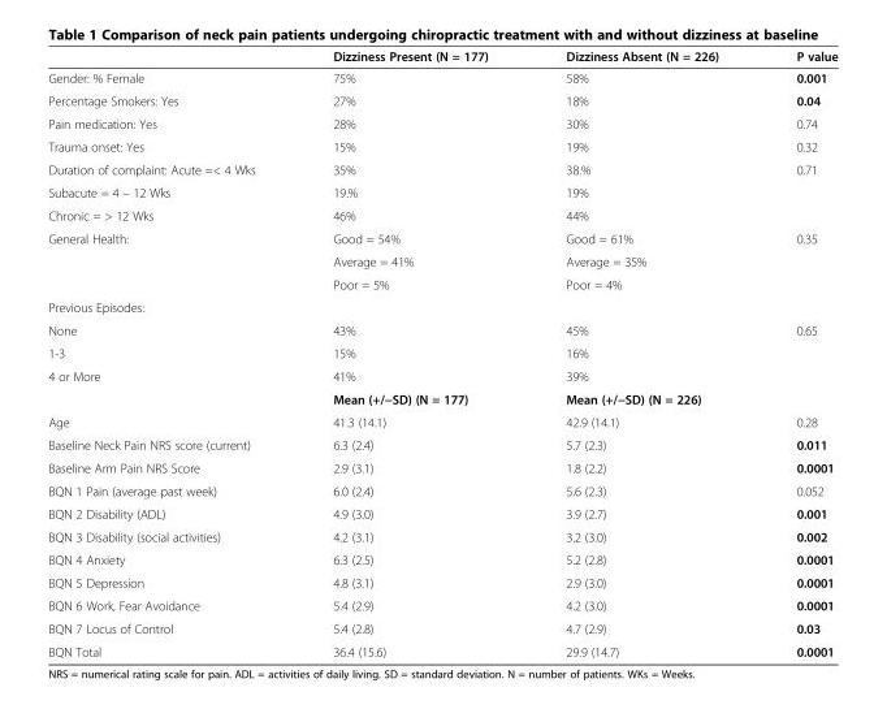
<table><thead><tr><td></td><td>Dizziness Present (N = 177)</td><td>Dizziness Absent (N = 226)</td><td>P value</td></tr></thead><tbody><tr><td>Gender: % Female</td><td>75%</td><td>58%</td><td>0.001</td></tr><tr><td>Percentage Smokers: Yes</td><td>27%</td><td>18%</td><td>0.04</td></tr><tr><td>Pain medication: Yes</td><td>28%</td><td>30%</td><td>0.74</td></tr><tr><td>Trauma onset: Yes</td><td>15%</td><td>19%</td><td>0.32</td></tr><tr><td>Duration of complaint: Acute =&lt; 4 Wks</td><td>35%</td><td>38.%</td><td>0.71</td></tr><tr><td>Subacute = 4 – 12 Wks</td><td>19.%</td><td>19%</td><td></td></tr><tr><td>Chronic = &gt; 12 Wks</td><td>46%</td><td>44%</td><td></td></tr><tr><td rowspan="3">General Health:</td><td>Good = 54%</td><td>Good = 61%</td><td>0.35</td></tr><tr><td>Average = 41%</td><td>Average = 35%</td><td></td></tr><tr><td>Poor = 5%</td><td>Poor = 4%</td><td></td></tr><tr><td colspan="4">Previous Episodes:</td></tr><tr><td>None</td><td>43%</td><td>45%</td><td>0.65</td></tr><tr><td>1-3</td><td>15%</td><td>16%</td><td></td></tr><tr><td rowspan="2">4 or More</td><td>41%</td><td>39%</td><td></td></tr><tr><td>Mean (+/−SD) (N = 177)</td><td>Mean (+/−SD) (N = 226)</td><td></td></tr><tr><td>Age</td><td>41.3 (14.1)</td><td>42.9 (14.1)</td><td>0.28</td></tr><tr><td>Baseline Neck Pain NRS score (current)</td><td>6.3 (2.4)</td><td>5.7 (2.3)</td><td>0.011</td></tr><tr><td>Baseline Arm Pain NRS Score</td><td>2.9 (3.1)</td><td>1.8 (2.2)</td><td>0.0001</td></tr><tr><td>BQN 1 Pain (average past week)</td><td>6.0 (2.4)</td><td>5.6 (2.3)</td><td>0.052</td></tr><tr><td>BQN 2 Disability (ADL)</td><td>4.9 (3.0)</td><td>3.9 (2.7)</td><td>0.001</td></tr><tr><td>BQN 3 Disability (social activities)</td><td>4.2 (3.1)</td><td>3.2 (3.0)</td><td>0.002</td></tr><tr><td>BQN 4 Anxiety</td><td>6.3 (2.5)</td><td>5.2 (2.8)</td><td>0.0001</td></tr><tr><td>BQN 5 Depression</td><td>4.8 (3.1)</td><td>2.9 (3.0)</td><td>0.0001</td></tr><tr><td>BQN 6 Work, Fear Avoidance</td><td>5.4 (2.9)</td><td>4.2 (3.0)</td><td>0.0001</td></tr><tr><td>BQN 7 Locus of Control</td><td>5.4 (2.8)</td><td>4.7 (2.9)</td><td>0.03</td></tr><tr><td>BQN Total</td><td>36.4 (15.6)</td><td>29.9 (14.7)</td><td>0.0001</td></tr></tbody></table>